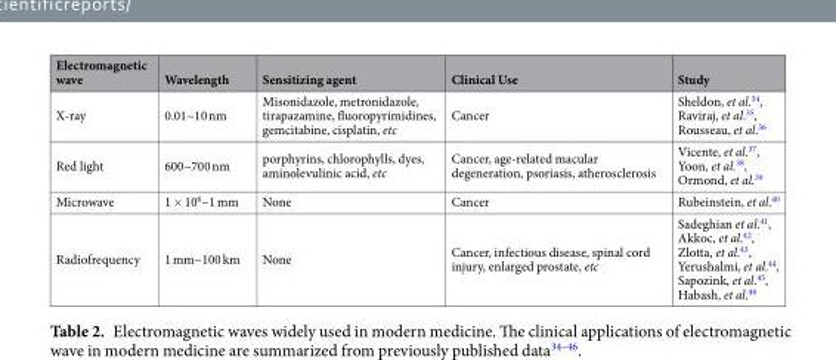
<table><thead><tr><td>Electromagnetic wave</td><td>Wavelength</td><td>Sensitizing agent</td><td>Clinical Use</td><td>Study</td></tr></thead><tbody><tr><td>X-ray</td><td>0.01~10 nm</td><td>Misonidazole, metronidazole, tirapazamine, fluoropyrimidines, gemcitabine, cisplatin, etc</td><td>Cancer</td><td>Sheldon, et al.<sup>34</sup>, Raviraj, et al.<sup>35</sup>, Rousseau, et al.<sup>36</sup></td></tr><tr><td>Red light</td><td>600~700 nm</td><td>porphyrins, chlorophylls, dyes, aminolevulinic acid, etc</td><td>Cancer, age-related macular degeneration, psoriasis, atherosclerosis</td><td>Vicente, et al.<sup>37</sup>, Yoon, et al.<sup>38</sup>, Ormond, et al.<sup>39</sup></td></tr><tr><td>Microwave</td><td>1 × 10<sup>6</sup>~1 mm</td><td>None</td><td>Cancer</td><td>Rubeinstein, et al.<sup>40</sup></td></tr><tr><td>Radiofrequency</td><td>1 mm~100 km</td><td>None</td><td>Cancer, infectious disease, spinal cord injury, enlarged prostate, etc</td><td>Sadeghian et al.<sup>41</sup>, Akkoc, et al.<sup>42</sup>, Zlotta, et al.<sup>43</sup>, Yerushalmi, et al.<sup>44</sup>, Sapozink, et al.<sup>45</sup>, Habash, et al.<sup>46</sup></td></tr></tbody></table>